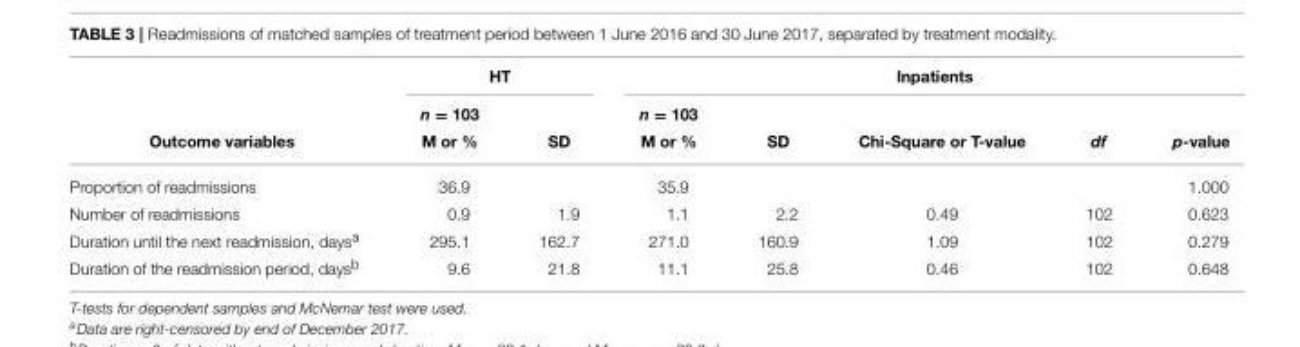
<table><thead><tr><td rowspan="3">Outcome variables</td><td colspan="2">HT</td><td colspan="5">Inpatients</td></tr><tr><td rowspan="2">n = 103 M or %</td><td rowspan="2">SD</td><td rowspan="2">n = 103 M or %</td><td rowspan="2">SD</td><td rowspan="2">Chi-Square or T-value</td><td rowspan="2">df</td><td rowspan="2">p-value</td></tr><tr></tr></thead><tbody><tr><td>Proportion of readmissions</td><td>36.9</td><td></td><td>35.9</td><td></td><td></td><td></td><td>1.000</td></tr><tr><td>Number of readmissions</td><td>0.9</td><td>1.9</td><td>1.1</td><td>2.2</td><td>0.49</td><td>102</td><td>0.623</td></tr><tr><td>Duration until the next readmission, days<sup>a</sup></td><td>295.1</td><td>162.7</td><td>271.0</td><td>160.9</td><td>1.09</td><td>102</td><td>0.279</td></tr><tr><td>Duration of the readmission period, days<sup>b</sup></td><td>9.6</td><td>21.8</td><td>11.1</td><td>25.8</td><td>0.46</td><td>102</td><td>0.648</td></tr></tbody></table>